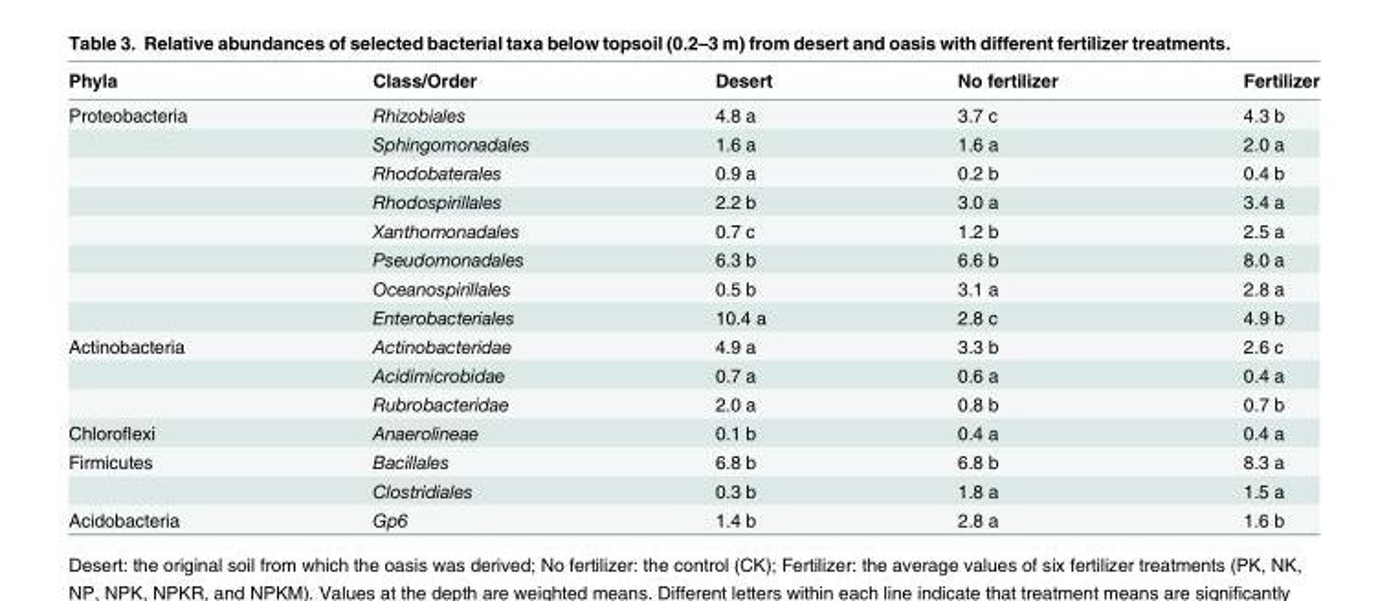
<table><thead><tr><td>Phyla</td><td>Class/Order</td><td>Desert</td><td>No fertilizer</td><td>Fertilizer</td></tr></thead><tbody><tr><td rowspan="8">Proteobacteria</td><td>Rhizobiales</td><td>4.8 a</td><td>3.7 c</td><td>4.3 b</td></tr><tr><td>Sphingomonadales</td><td>1.6 a</td><td>1.6 a</td><td>2.0 a</td></tr><tr><td>Rhodobaterales</td><td>0.9 a</td><td>0.2 b</td><td>0.4 b</td></tr><tr><td>Rhodospirillales</td><td>2.2 b</td><td>3.0 a</td><td>3.4 a</td></tr><tr><td>Xanthomonadales</td><td>0.7 c</td><td>1.2 b</td><td>2.5 a</td></tr><tr><td>Pseudomonadales</td><td>6.3 b</td><td>6.6 b</td><td>8.0 a</td></tr><tr><td>Oceanospirillales</td><td>0.5 b</td><td>3.1 a</td><td>2.8 a</td></tr><tr><td>Enterobacteriales</td><td>10.4 a</td><td>2.8 c</td><td>4.9 b</td></tr><tr><td rowspan="3">Actinobacteria</td><td>Actinobacteridae</td><td>4.9 a</td><td>3.3 b</td><td>2.6 c</td></tr><tr><td>Acidimicrobidae</td><td>0.7 a</td><td>0.6 a</td><td>0.4 a</td></tr><tr><td>Rubrobacteridae</td><td>2.0 a</td><td>0.8 b</td><td>0.7 b</td></tr><tr><td>Chloroflexi</td><td>Anaerolineae</td><td>0.1 b</td><td>0.4 a</td><td>0.4 a</td></tr><tr><td rowspan="2">Firmicutes</td><td>Bacillales</td><td>6.8 b</td><td>6.8 b</td><td>8.3 a</td></tr><tr><td>Clostridiales</td><td>0.3 b</td><td>1.8 a</td><td>1.5 a</td></tr><tr><td>Acidobacteria</td><td>Gp6</td><td>1.4 b</td><td>2.8 a</td><td>1.6 b</td></tr></tbody></table>